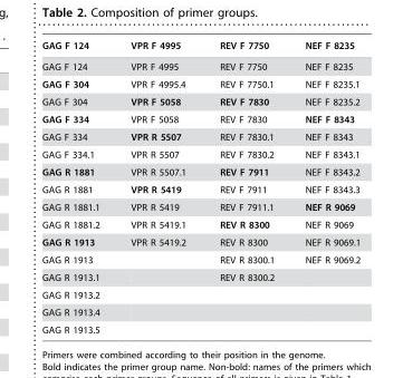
<table><thead><tr><td>GAG F 124</td><td>VPR F 4995</td><td>REV F 7750</td><td>NEF F 8235</td></tr></thead><tbody><tr><td>GAG F 124</td><td>VPR F 4995</td><td>REV F 7750</td><td>NEF F 8235</td></tr><tr><td>GAG F 304</td><td>VPR F 4995.4</td><td>REV F 7750.1</td><td>NEF F 8235.1</td></tr><tr><td>GAG F 304</td><td>VPR F 5058</td><td>REV F 7830</td><td>NEF F 8235.2</td></tr><tr><td>GAG F 334</td><td>VPR F 5058</td><td>REV F 7830</td><td>NEF F 8343</td></tr><tr><td>GAG F 334</td><td>VPR R 5507</td><td>REV F 7830.1</td><td>NEF F 8343</td></tr><tr><td>GAG F 334.1</td><td>VPR R 5507</td><td>REV F 7830.2</td><td>NEF F 8343.1</td></tr><tr><td>GAG R 1881</td><td>VPR R 5507.1</td><td>REV F 7911</td><td>NEF F 8343.2</td></tr><tr><td>GAG R 1881</td><td>VPR R 5419</td><td>REV F 7911</td><td>NEF F 8343.3</td></tr><tr><td>GAG R 1881.1</td><td>VPR R 5419</td><td>REV F 7911.1</td><td>NEF R 9069</td></tr><tr><td>GAG R 1881.2</td><td>VPR R 5419.1</td><td>REV R 8300</td><td>NEF R 9069</td></tr><tr><td>GAG R 1913</td><td>VPR R 5419.2</td><td>REV R 8300</td><td>NEF R 9069.1</td></tr><tr><td>GAG R 1913</td><td></td><td>REV R 8300.1</td><td>NEF R 9069.2</td></tr><tr><td>GAG R 1913.1</td><td></td><td>REV R 8300.2</td><td></td></tr><tr><td colspan="4">GAG R 1913.2</td></tr><tr><td colspan="4">GAG R 1913.4</td></tr><tr><td>GAG R 1913.5</td><td></td><td></td><td></td></tr></tbody></table>